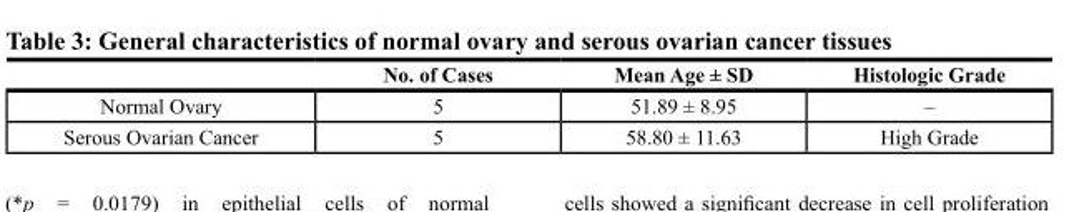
<table><thead><tr><td></td><td>No. of Cases</td><td>Mean Age ± SD</td><td>Histologic Grade</td></tr></thead><tbody><tr><td>Normal Ovary</td><td>5</td><td>51.89 ± 8.95</td><td>–</td></tr><tr><td>Serous Ovarian Cancer</td><td>5</td><td>58.80 ± 11.63</td><td>High Grade</td></tr></tbody></table>